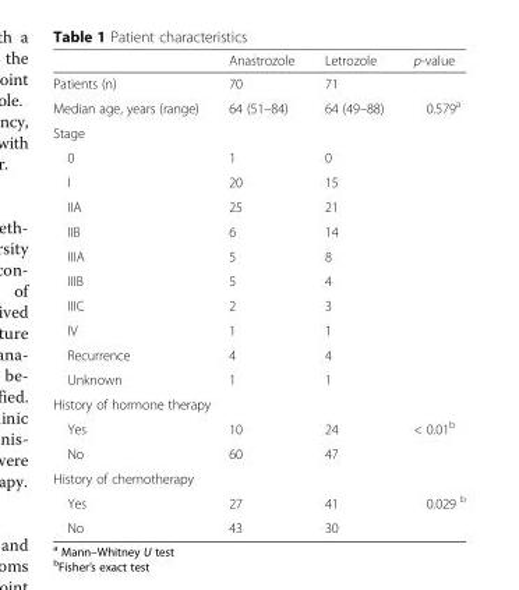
<table><thead><tr><td></td><td>Anastrozole</td><td>Letrozole</td><td>p-value</td></tr></thead><tbody><tr><td>Patients (n)</td><td>70</td><td>71</td><td></td></tr><tr><td>Median age, years (range)</td><td>64 (51–84)</td><td>64 (49–88)</td><td>0.579<sup>a</sup></td></tr><tr><td colspan="4">Stage</td></tr><tr><td>0</td><td>1</td><td>0</td><td></td></tr><tr><td>I</td><td>20</td><td>15</td><td></td></tr><tr><td>IIA</td><td>25</td><td>21</td><td></td></tr><tr><td>IIB</td><td>6</td><td>14</td><td></td></tr><tr><td>IIIA</td><td>5</td><td>8</td><td></td></tr><tr><td>IIIB</td><td>5</td><td>4</td><td></td></tr><tr><td>IIIC</td><td>2</td><td>3</td><td></td></tr><tr><td>IV</td><td>1</td><td>1</td><td></td></tr><tr><td>Recurrence</td><td>4</td><td>4</td><td></td></tr><tr><td>Unknown</td><td>1</td><td>1</td><td></td></tr><tr><td colspan="4">History of hormone therapy</td></tr><tr><td>Yes</td><td>10</td><td>24</td><td>&lt; 0.01<sup>b</sup></td></tr><tr><td>No</td><td>60</td><td>47</td><td></td></tr><tr><td colspan="4">History of chemotherapy</td></tr><tr><td>Yes</td><td>27</td><td>41</td><td>0.029 <sup>b</sup></td></tr><tr><td>No</td><td>43</td><td>30</td><td></td></tr></tbody></table>